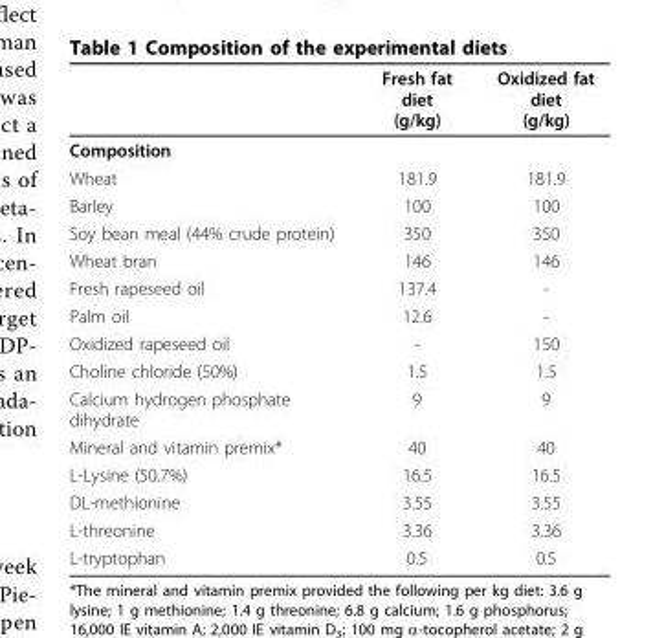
<table><thead><tr><td></td><td>Fresh fat diet (g/kg)</td><td>Oxidized fat diet (g/kg)</td></tr></thead><tbody><tr><td colspan="3">Composition</td></tr><tr><td>Wheat</td><td>181.9</td><td>181.9</td></tr><tr><td>Barley</td><td>100</td><td>100</td></tr><tr><td>Soy bean meal (44% crude protein)</td><td>350</td><td>350</td></tr><tr><td>Wheat bran</td><td>146</td><td>146</td></tr><tr><td>Fresh rapeseed oil</td><td>137.4</td><td>-</td></tr><tr><td>Palm oil</td><td>12.6</td><td>-</td></tr><tr><td>Oxidized rapeseed oil</td><td>-</td><td>150</td></tr><tr><td>Choline chloride (50%)</td><td>1.5</td><td>1.5</td></tr><tr><td>Calcium hydrogen phosphate dihydrate</td><td>9</td><td>9</td></tr><tr><td>Mineral and vitamin premix*</td><td>40</td><td>40</td></tr><tr><td>L-Lysine (50.7%)</td><td>16.5</td><td>16.5</td></tr><tr><td>DL-methionine</td><td>3.55</td><td>3.55</td></tr><tr><td>L-threonine</td><td>3.36</td><td>3.36</td></tr><tr><td>L-tryptophan</td><td>0.5</td><td>0.5</td></tr></tbody></table>